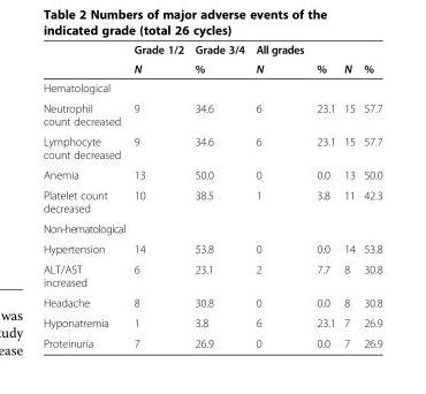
<table><thead><tr><td rowspan="2"></td><td rowspan="2">Grade 1/2 N</td><td rowspan="2">Grade 3/4 %</td><td rowspan="2">All grades N</td><td rowspan="2">%</td><td rowspan="2">N</td><td rowspan="2">%</td></tr><tr></tr></thead><tbody><tr><td colspan="7">Hematological</td></tr><tr><td>Neutrophil count decreased</td><td>9</td><td>34.6</td><td>6</td><td>23.1</td><td>15</td><td>57.7</td></tr><tr><td>Lymphocyte count decreased</td><td>9</td><td>34.6</td><td>6</td><td>23.1</td><td>15</td><td>57.7</td></tr><tr><td>Anemia</td><td>13</td><td>50.0</td><td>0</td><td>0.0</td><td>13</td><td>50.0</td></tr><tr><td>Platelet count decreased</td><td>10</td><td>38.5</td><td>1</td><td>3.8</td><td>11</td><td>42.3</td></tr><tr><td colspan="7">Non-hematological</td></tr><tr><td>Hypertension</td><td>14</td><td>53.8</td><td>0</td><td>0.0</td><td>14</td><td>53.8</td></tr><tr><td>ALT/AST increased</td><td>6</td><td>23.1</td><td>2</td><td>7.7</td><td>8</td><td>30.8</td></tr><tr><td>Headache</td><td>8</td><td>30.8</td><td>0</td><td>0.0</td><td>8</td><td>30.8</td></tr><tr><td>Hyponatremia</td><td>1</td><td>3.8</td><td>6</td><td>23.1</td><td>7</td><td>26.9</td></tr><tr><td>Proteinuria</td><td>7</td><td>26.9</td><td>0</td><td>0.0</td><td>7</td><td>26.9</td></tr></tbody></table>